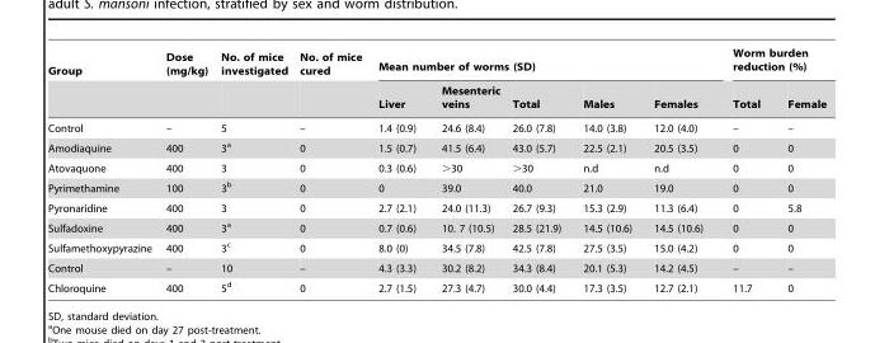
<table><thead><tr><td rowspan="2">Group</td><td rowspan="2">Dose (mg/kg)</td><td rowspan="2">No. of mice investigated</td><td rowspan="2">No. of mice cured</td><td colspan="5">Mean number of worms (SD)</td><td colspan="2">Worm burden reduction (%)</td></tr><tr><td>Liver</td><td>Mesenteric veins</td><td>Total</td><td>Males</td><td>Females</td><td>Total</td><td>Female</td></tr></thead><tbody><tr><td>Control</td><td>–</td><td>5</td><td>–</td><td>1.4 (0.9)</td><td>24.6 (8.4)</td><td>26.0 (7.8)</td><td>14.0 (3.8)</td><td>12.0 (4.0)</td><td>–</td><td>–</td></tr><tr><td>Amodiaquine</td><td>400</td><td>3<sup>a</sup></td><td>0</td><td>1.5 (0.7)</td><td>41.5 (6.4)</td><td>43.0 (5.7)</td><td>22.5 (2.1)</td><td>20.5 (3.5)</td><td>0</td><td>0</td></tr><tr><td>Atovaquone</td><td>400</td><td>3</td><td>0</td><td>0.3 (0.6)</td><td>&gt;30</td><td>&gt;30</td><td>n.d</td><td>n.d</td><td>0</td><td>0</td></tr><tr><td>Pyrimethamine</td><td>100</td><td>3<sup>b</sup></td><td>0</td><td>0</td><td>39.0</td><td>40.0</td><td>21.0</td><td>19.0</td><td>0</td><td>0</td></tr><tr><td>Pyronaridine</td><td>400</td><td>3</td><td>0</td><td>2.7 (2.1)</td><td>24.0 (11.3)</td><td>26.7 (9.3)</td><td>15.3 (2.9)</td><td>11.3 (6.4)</td><td>0</td><td>5.8</td></tr><tr><td>Sulfadoxine</td><td>400</td><td>3<sup>a</sup></td><td>0</td><td>0.7 (0.6)</td><td>10. 7 (10.5)</td><td>28.5 (21.9)</td><td>14.5 (10.6)</td><td>14.5 (10.6)</td><td>0</td><td>0</td></tr><tr><td>Sulfamethoxypyrazine</td><td>400</td><td>3<sup>c</sup></td><td>0</td><td>8.0 (0)</td><td>34.5 (7.8)</td><td>42.5 (7.8)</td><td>27.5 (3.5)</td><td>15.0 (4.2)</td><td>0</td><td>0</td></tr><tr><td>Control</td><td>–</td><td>10</td><td>–</td><td>4.3 (3.3)</td><td>30.2 (8.2)</td><td>34.3 (8.4)</td><td>20.1 (5.3)</td><td>14.2 (4.5)</td><td>–</td><td>–</td></tr><tr><td>Chloroquine</td><td>400</td><td>5<sup>d</sup></td><td>0</td><td>2.7 (1.5)</td><td>27.3 (4.7)</td><td>30.0 (4.4)</td><td>17.3 (3.5)</td><td>12.7 (2.1)</td><td>11.7</td><td>0</td></tr></tbody></table>